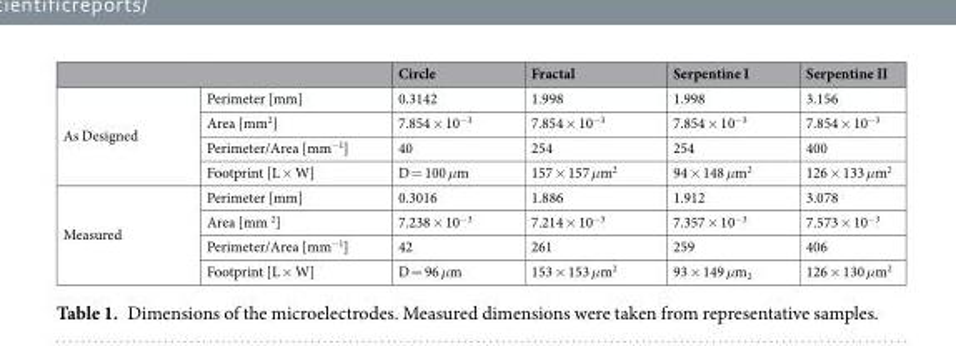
<table><thead><tr><td></td><td></td><td>Circle</td><td>Fractal</td><td>Serpentine I</td><td>Serpentine II</td></tr></thead><tbody><tr><td rowspan="4">As Designed</td><td>Perimeter [mm]</td><td>0.3142</td><td>1.998</td><td>1.998</td><td>3.156</td></tr><tr><td>Area [mm<sup>2</sup>]</td><td>7.854 × 10<sup>−3</sup></td><td>7.854 × 10<sup>−3</sup></td><td>7.854 × 10<sup>−3</sup></td><td>7.854 × 10<sup>−3</sup></td></tr><tr><td>Perimeter/Area [mm<sup>−1</sup>]</td><td>40</td><td>254</td><td>254</td><td>400</td></tr><tr><td>Footprint [L × W]</td><td>D = 100 μm</td><td>157 × 157 μm<sup>2</sup></td><td>94 × 148 μm<sup>2</sup></td><td>126 × 133 μm<sup>2</sup></td></tr><tr><td rowspan="4">Measured</td><td>Perimeter [mm]</td><td>0.3016</td><td>1.886</td><td>1.912</td><td>3.078</td></tr><tr><td>Area [mm <sup>2</sup>]</td><td>7.238 × 10<sup>−3</sup></td><td>7.214 × 10<sup>−3</sup></td><td>7.357 × 10<sup>−3</sup></td><td>7.573 × 10<sup>−3</sup></td></tr><tr><td>Perimeter/Area [mm<sup>−1</sup>]</td><td>42</td><td>261</td><td>259</td><td>406</td></tr><tr><td>Footprint [L × W]</td><td>D = 96 μm</td><td>153 × 153 μm<sup>2</sup></td><td>93 × 149 μm<sub>2</sub></td><td>126 × 130 μm<sup>2</sup></td></tr></tbody></table>